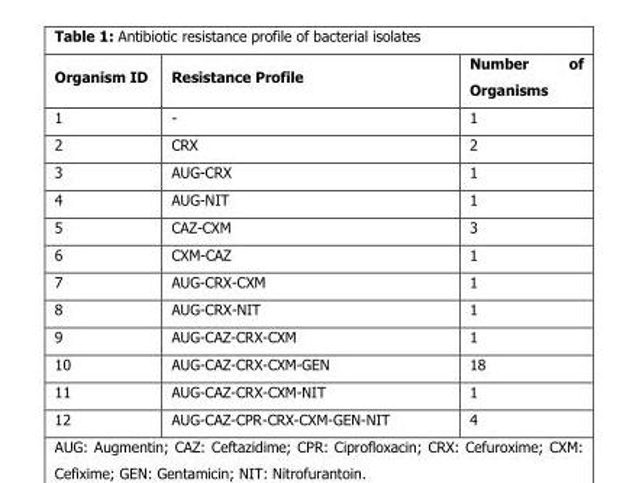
<table><thead><tr><td>Organism ID</td><td>Resistance Profile</td><td>Number of Organisms</td></tr></thead><tbody><tr><td>1</td><td>-</td><td>1</td></tr><tr><td>2</td><td>CRX</td><td>2</td></tr><tr><td>3</td><td>AUG-CRX</td><td>1</td></tr><tr><td>4</td><td>AUG-NIT</td><td>1</td></tr><tr><td>5</td><td>CAZ-CXM</td><td>3</td></tr><tr><td>6</td><td>CXM-CAZ</td><td>1</td></tr><tr><td>7</td><td>AUG-CRX-CXM</td><td>1</td></tr><tr><td>8</td><td>AUG-CRX-NIT</td><td>1</td></tr><tr><td>9</td><td>AUG-CAZ-CRX-CXM</td><td>1</td></tr><tr><td>10</td><td>AUG-CAZ-CRX-CXM-GEN</td><td>18</td></tr><tr><td>11</td><td>AUG-CAZ-CRX-CXM-NIT</td><td>1</td></tr><tr><td>12</td><td>AUG-CAZ-CPR-CRX-CXM-GEN-NIT</td><td>4</td></tr></tbody></table>